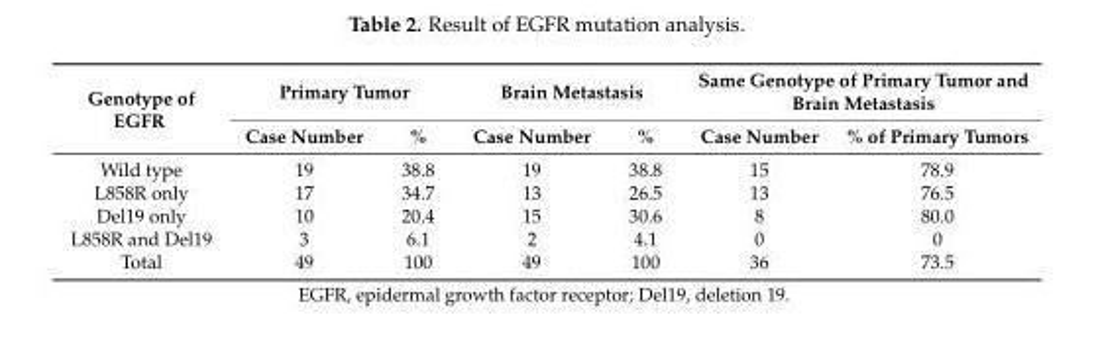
<table><thead><tr><td rowspan="2">Genotype of EGFR</td><td colspan="2">Primary Tumor</td><td colspan="2">Brain Metastasis</td><td colspan="2">Same Genotype of Primary Tumor and Brain Metastasis</td></tr><tr><td>Case Number</td><td>%</td><td>Case Number</td><td>%</td><td>Case Number</td><td>% of Primary Tumors</td></tr></thead><tbody><tr><td>Wild type</td><td>19</td><td>38.8</td><td>19</td><td>38.8</td><td>15</td><td>78.9</td></tr><tr><td>L858R only</td><td>17</td><td>34.7</td><td>13</td><td>26.5</td><td>13</td><td>76.5</td></tr><tr><td>Del19 only</td><td>10</td><td>20.4</td><td>15</td><td>30.6</td><td>8</td><td>80.0</td></tr><tr><td>L858R and Del19</td><td>3</td><td>6.1</td><td>2</td><td>4.1</td><td>0</td><td>0</td></tr><tr><td>Total</td><td>49</td><td>100</td><td>49</td><td>100</td><td>36</td><td>73.5</td></tr></tbody></table>